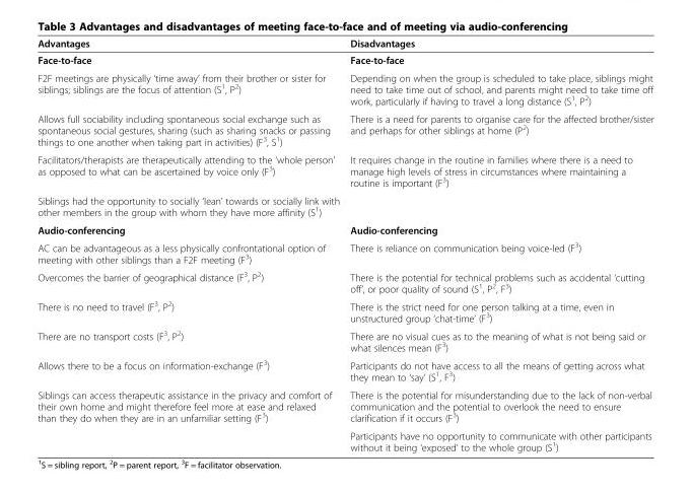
<table><thead><tr><td>Advantages</td><td>Disadvantages</td></tr></thead><tbody><tr><td>Face-to-face</td><td>Face-to-face</td></tr><tr><td>F2F meetings are physically ‘time away’ from their brother or sister for siblings; siblings are the focus of attention (S<sup>1</sup>, P<sup>2</sup>)</td><td>Depending on when the group is scheduled to take place, siblings might need to take time out of school, and parents might need to take time off work, particularly if having to travel a long distance (S<sup>1</sup>, P<sup>2</sup>)</td></tr><tr><td>Allows full sociability including spontaneous social exchange such as spontaneous social gestures, sharing (such as sharing snacks or passing things to one another when taking part in activities) (F<sup>3</sup>, S<sup>1</sup>)</td><td>There is a need for parents to organise care for the affected brother/sister and perhaps for other siblings at home (P<sup>2</sup>)</td></tr><tr><td>Facilitators/therapists are therapeutically attending to the ‘whole person’ as opposed to what can be ascertained by voice only (F<sup>3</sup>)</td><td>It requires change in the routine in families where there is a need to manage high levels of stress in circumstances where maintaining a routine is important (F<sup>3</sup>)</td></tr><tr><td colspan="2">Siblings had the opportunity to socially ‘lean’ towards or socially link with other members in the group with whom they have more affinity (S<sup>1</sup>)</td></tr><tr><td>Audio-conferencing</td><td>Audio-conferencing</td></tr><tr><td>AC can be advantageous as a less physically confrontational option of meeting with other siblings than a F2F meeting (F<sup>3</sup>)</td><td>There is reliance on communication being voice-led (F<sup>3</sup>)</td></tr><tr><td>Overcomes the barrier of geographical distance (F<sup>3</sup>, P<sup>2</sup>)</td><td>There is the potential for technical problems such as accidental ‘cutting off’, or poor quality of sound (S<sup>1</sup>, P<sup>2</sup>, F<sup>3</sup>)</td></tr><tr><td>There is no need to travel (F<sup>3</sup>, P<sup>2</sup>)</td><td>There is the strict need for one person talking at a time, even in unstructured group ‘chat-time’ (F<sup>3</sup>)</td></tr><tr><td>There are no transport costs (F<sup>3</sup>, P<sup>2</sup>)</td><td>There are no visual cues as to the meaning of what is not being said or what silences mean (F<sup>3</sup>)</td></tr><tr><td>Allows there to be a focus on information-exchange (F<sup>3</sup>)</td><td>Participants do not have access to all the means of getting across what they mean to ‘say’ (S<sup>1</sup>, F<sup>3</sup>)</td></tr><tr><td rowspan="2">Siblings can access therapeutic assistance in the privacy and comfort of their own home and might therefore feel more at ease and relaxed than they do when they are in an unfamiliar setting (F<sup>3</sup>)</td><td>There is the potential for misunderstanding due to the lack of non-verbal communication and the potential to overlook the need to ensure clarification if it occurs (F<sup>3</sup>)</td></tr><tr><td>Participants have no opportunity to communicate with other participants without it being ‘exposed’ to the whole group (S<sup>1</sup>)</td></tr></tbody></table>